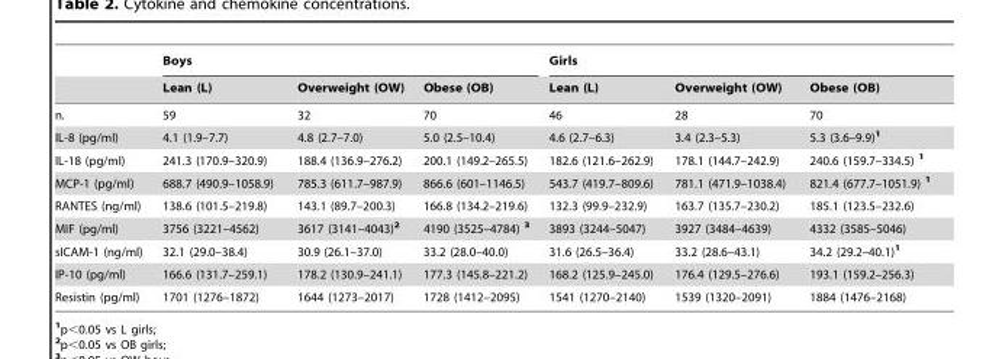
<table><thead><tr><td rowspan="2"></td><td colspan="3">Boys</td><td colspan="3">Girls</td></tr><tr><td>Lean (L)</td><td>Overweight (OW)</td><td>Obese (OB)</td><td>Lean (L)</td><td>Overweight (OW)</td><td>Obese (OB)</td></tr></thead><tbody><tr><td>n.</td><td>59</td><td>32</td><td>70</td><td>46</td><td>28</td><td>70</td></tr><tr><td>IL-8 (pg/ml)</td><td>4.1 (1.9–7.7)</td><td>4.8 (2.7–7.0)</td><td>5.0 (2.5–10.4)</td><td>4.6 (2.7–6.3)</td><td>3.4 (2.3–5.3)</td><td>5.3 (3.6–9.9)<sup>1</sup></td></tr><tr><td>IL-18 (pg/ml)</td><td>241.3 (170.9–320.9)</td><td>188.4 (136.9–276.2)</td><td>200.1 (149.2–265.5)</td><td>182.6 (121.6–262.9)</td><td>178.1 (144.7–242.9)</td><td>240.6 (159.7–334.5) 1</td></tr><tr><td>MCP-1 (pg/ml)</td><td>688.7 (490.9–1058.9)</td><td>785.3 (611.7–987.9)</td><td>866.6 (601–1146.5)</td><td>543.7 (419.7–809.6)</td><td>781.1 (471.9–1038.4)</td><td>821.4 (677.7–1051.9) 1</td></tr><tr><td>RANTES (ng/ml)</td><td>138.6 (101.5–219.8)</td><td>143.1 (89.7–200.3)</td><td>166.8 (134.2–219.6)</td><td>132.3 (99.9–232.9)</td><td>163.7 (135.7–230.2)</td><td>185.1 (123.5–232.6)</td></tr><tr><td>MIF (pg/ml)</td><td>3756 (3221–4562)</td><td>3617 (3141–4043)<sup>2</sup></td><td>4190 (3525–4784) 3</td><td>3893 (3244–5047)</td><td>3927 (3484–4639)</td><td>4332 (3585–5046)</td></tr><tr><td>sICAM-1 (ng/ml)</td><td>32.1 (29.0–38.4)</td><td>30.9 (26.1–37.0)</td><td>33.2 (28.0–40.0)</td><td>31.6 (26.5–36.4)</td><td>33.2 (28.6–43.1)</td><td>34.2 (29.2–40.1)<sup>1</sup></td></tr><tr><td>IP-10 (pg/ml)</td><td>166.6 (131.7–259.1)</td><td>178.2 (130.9–241.1)</td><td>177.3 (145.8–221.2)</td><td>168.2 (125.9–245.0)</td><td>176.4 (129.5–276.6)</td><td>193.1 (159.2–256.3)</td></tr><tr><td>Resistin (pg/ml)</td><td>1701 (1276–1872)</td><td>1644 (1273–2017)</td><td>1728 (1412–2095)</td><td>1541 (1270–2140)</td><td>1539 (1320–2091)</td><td>1884 (1476–2168)</td></tr></tbody></table>